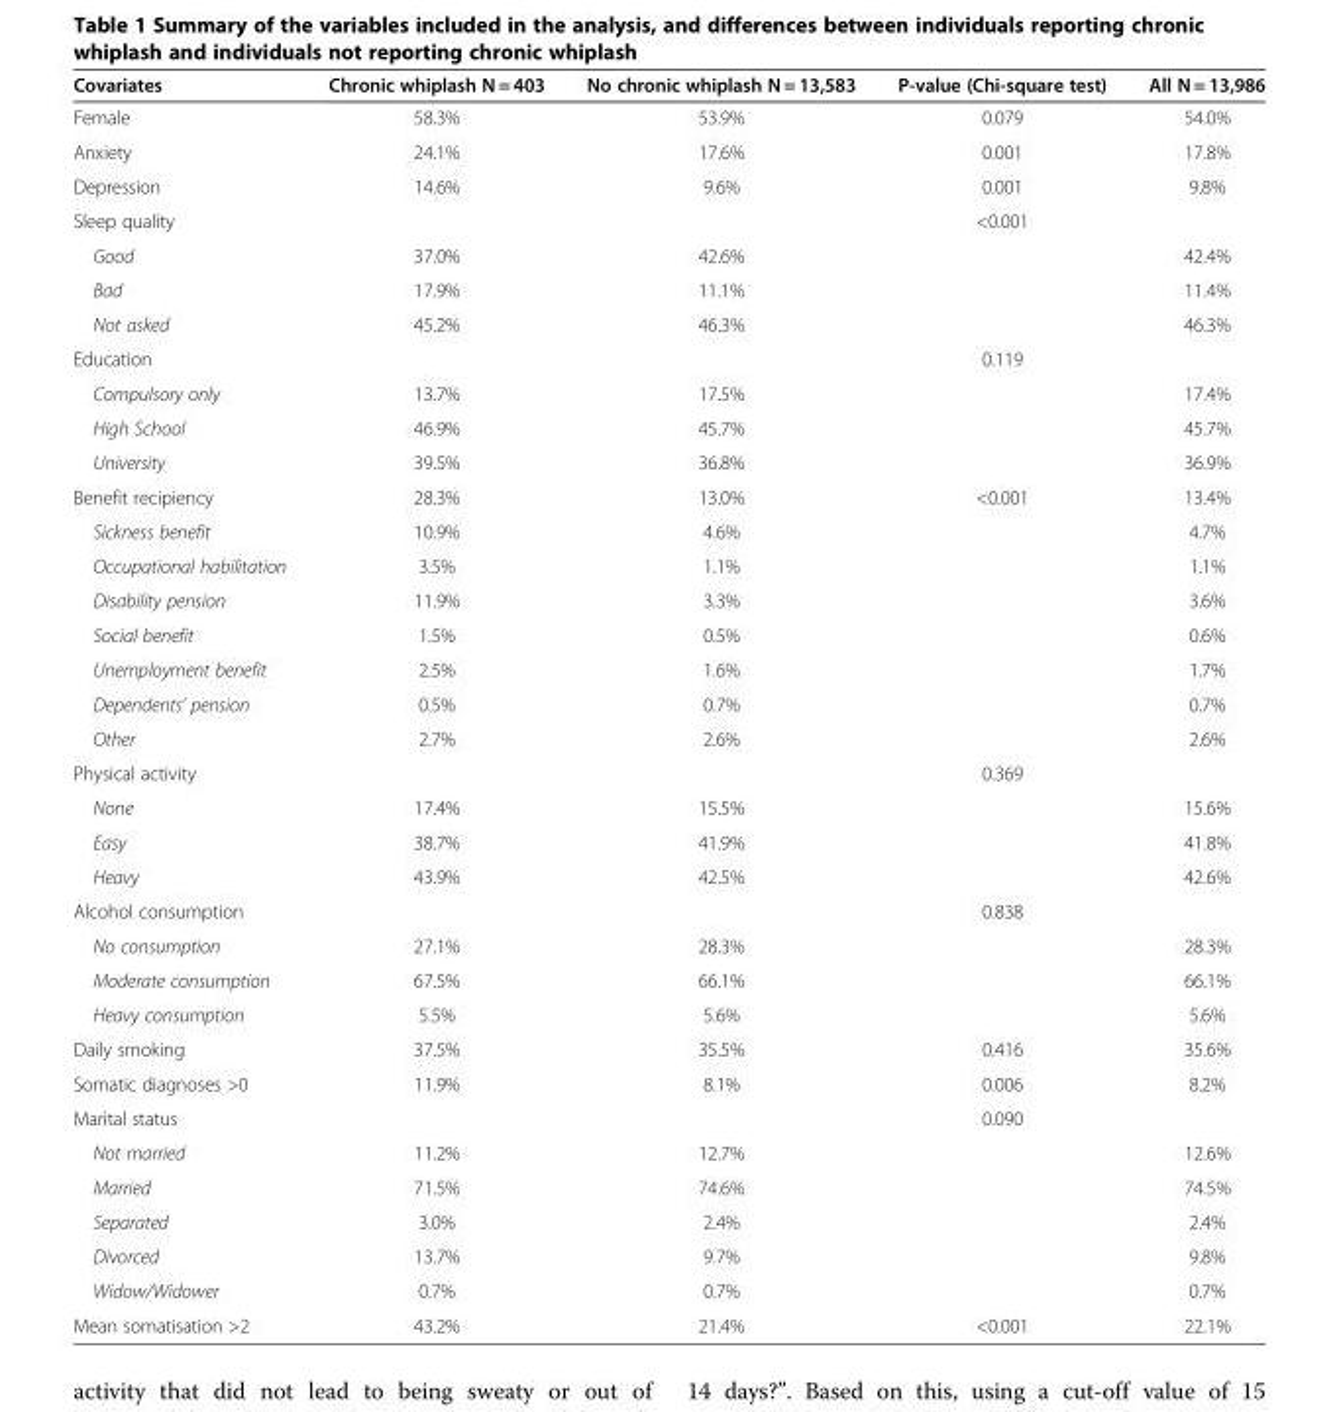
<table><thead><tr><td>Covariates</td><td>Chronic whiplash N = 403</td><td>No chronic whiplash N = 13,583</td><td>P-value (Chi-square test)</td><td>All N = 13,986</td></tr></thead><tbody><tr><td>Female</td><td>58.3%</td><td>53.9%</td><td>0.079</td><td>54.0%</td></tr><tr><td>Anxiety</td><td>24.1%</td><td>17.6%</td><td>0.001</td><td>17.8%</td></tr><tr><td>Depression</td><td>14.6%</td><td>9.6%</td><td>0.001</td><td>9.8%</td></tr><tr><td>Sleep quality</td><td></td><td></td><td>&lt;0.001</td><td></td></tr><tr><td>Good</td><td>37.0%</td><td>42.6%</td><td></td><td>42.4%</td></tr><tr><td>Bad</td><td>17.9%</td><td>11.1%</td><td></td><td>11.4%</td></tr><tr><td>Not asked</td><td>45.2%</td><td>46.3%</td><td></td><td>46.3%</td></tr><tr><td>Education</td><td></td><td></td><td>0.119</td><td></td></tr><tr><td>Compulsory only</td><td>13.7%</td><td>17.5%</td><td></td><td>17.4%</td></tr><tr><td>High School</td><td>46.9%</td><td>45.7%</td><td></td><td>45.7%</td></tr><tr><td>University</td><td>39.5%</td><td>36.8%</td><td></td><td>36.9%</td></tr><tr><td>Benefit recipiency</td><td>28.3%</td><td>13.0%</td><td>&lt;0.001</td><td>13.4%</td></tr><tr><td>Sickness benefit</td><td>10.9%</td><td>4.6%</td><td></td><td>4.7%</td></tr><tr><td>Occupational habilitation</td><td>3.5%</td><td>1.1%</td><td></td><td>1.1%</td></tr><tr><td>Disability pension</td><td>11.9%</td><td>3.3%</td><td></td><td>3.6%</td></tr><tr><td>Social benefit</td><td>1.5%</td><td>0.5%</td><td></td><td>0.6%</td></tr><tr><td>Unemployment benefit</td><td>2.5%</td><td>1.6%</td><td></td><td>1.7%</td></tr><tr><td>Dependents’ pension</td><td>0.5%</td><td>0.7%</td><td></td><td>0.7%</td></tr><tr><td>Other</td><td>2.7%</td><td>2.6%</td><td></td><td>2.6%</td></tr><tr><td>Physical activity</td><td></td><td></td><td>0.369</td><td></td></tr><tr><td>None</td><td>17.4%</td><td>15.5%</td><td></td><td>15.6%</td></tr><tr><td>Easy</td><td>38.7%</td><td>41.9%</td><td></td><td>41.8%</td></tr><tr><td>Heavy</td><td>43.9%</td><td>42.5%</td><td></td><td>42.6%</td></tr><tr><td>Alcohol consumption</td><td></td><td></td><td>0.838</td><td></td></tr><tr><td>No consumption</td><td>27.1%</td><td>28.3%</td><td></td><td>28.3%</td></tr><tr><td>Moderate consumption</td><td>67.5%</td><td>66.1%</td><td></td><td>66.1%</td></tr><tr><td>Heavy consumption</td><td>5.5%</td><td>5.6%</td><td></td><td>5.6%</td></tr><tr><td>Daily smoking</td><td>37.5%</td><td>35.5%</td><td>0.416</td><td>35.6%</td></tr><tr><td>Somatic diagnoses &gt;0</td><td>11.9%</td><td>8.1%</td><td>0.006</td><td>8.2%</td></tr><tr><td>Marital status</td><td></td><td></td><td>0.090</td><td></td></tr><tr><td>Not married</td><td>11.2%</td><td>12.7%</td><td></td><td>12.6%</td></tr><tr><td>Married</td><td>71.5%</td><td>74.6%</td><td></td><td>74.5%</td></tr><tr><td>Separated</td><td>3.0%</td><td>2.4%</td><td></td><td>2.4%</td></tr><tr><td>Divorced</td><td>13.7%</td><td>9.7%</td><td></td><td>9.8%</td></tr><tr><td>Widow/Widower</td><td>0.7%</td><td>0.7%</td><td></td><td>0.7%</td></tr><tr><td>Mean somatisation &gt;2</td><td>43.2%</td><td>21.4%</td><td>&lt;0.001</td><td>22.1%</td></tr></tbody></table>